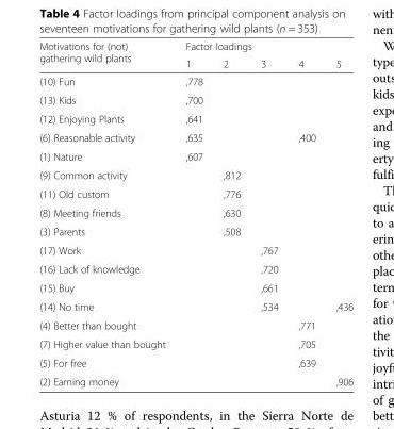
<table><thead><tr><td rowspan="2">Motivations for (not) gathering wild plants</td><td colspan="5">Factor loadings</td></tr><tr><td>1</td><td>2</td><td>3</td><td>4</td><td>5</td></tr></thead><tbody><tr><td>(10) Fun</td><td>,778</td><td></td><td></td><td></td><td></td></tr><tr><td>(13) Kids</td><td>,700</td><td></td><td></td><td></td><td></td></tr><tr><td>(12) Enjoying Plants</td><td>,641</td><td></td><td></td><td></td><td></td></tr><tr><td>(6) Reasonable activity</td><td>,635</td><td></td><td></td><td>,400</td><td></td></tr><tr><td>(1) Nature</td><td>,607</td><td></td><td></td><td></td><td></td></tr><tr><td>(9) Common activity</td><td></td><td>,812</td><td></td><td></td><td></td></tr><tr><td>(11) Old custom</td><td></td><td>,776</td><td></td><td></td><td></td></tr><tr><td>(8) Meeting friends</td><td></td><td>,630</td><td></td><td></td><td></td></tr><tr><td>(3) Parents</td><td></td><td>,508</td><td></td><td></td><td></td></tr><tr><td>(17) Work</td><td></td><td></td><td>,767</td><td></td><td></td></tr><tr><td>(16) Lack of knowledge</td><td></td><td></td><td>,720</td><td></td><td></td></tr><tr><td>(15) Buy</td><td></td><td></td><td>,661</td><td></td><td></td></tr><tr><td>(14) No time</td><td></td><td></td><td>,534</td><td></td><td>,436</td></tr><tr><td>(4) Better than bought</td><td></td><td></td><td></td><td>,771</td><td></td></tr><tr><td>(7) Higher value than bought</td><td></td><td></td><td></td><td>,705</td><td></td></tr><tr><td>(5) For free</td><td></td><td></td><td></td><td>,639</td><td></td></tr><tr><td>(2) Earning money</td><td></td><td></td><td></td><td></td><td>,906</td></tr></tbody></table>